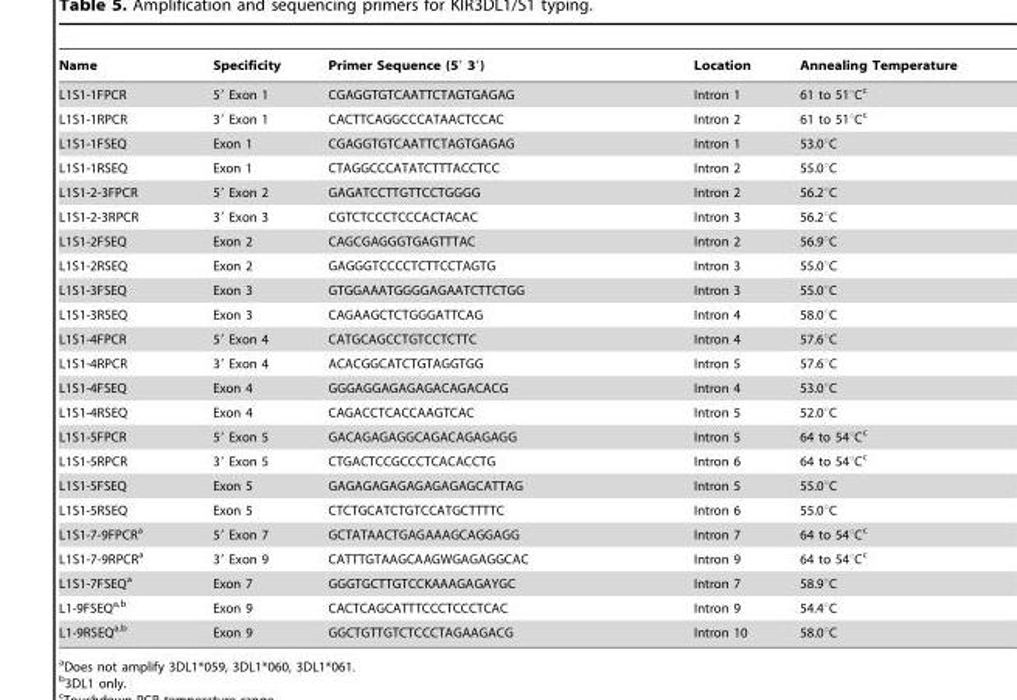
<table><thead><tr><td>Name</td><td>Specificity</td><td>Primer Sequence (5′ 3′)</td><td>Location</td><td>Annealing Temperature</td></tr></thead><tbody><tr><td>L1S1-1FPCR</td><td>5′ Exon 1</td><td>CGAGGTGTCAATTCTAGTGAGAG</td><td>Intron 1</td><td>61 to 51°C<sup>c</sup></td></tr><tr><td>L1S1-1RPCR</td><td>3′ Exon 1</td><td>CACTTCAGGCCCATAACTCCAC</td><td>Intron 2</td><td>61 to 51°C<sup>c</sup></td></tr><tr><td>L1S1-1FSEQ</td><td>Exon 1</td><td>CGAGGTGTCAATTCTAGTGAGAG</td><td>Intron 1</td><td>53.0°C</td></tr><tr><td>L1S1-1RSEQ</td><td>Exon 1</td><td>CTAGGCCCATATCTTTACCTCC</td><td>Intron 2</td><td>55.0°C</td></tr><tr><td>L1S1-2-3FPCR</td><td>5′ Exon 2</td><td>GAGATCCTTGTTCCTGGGG</td><td>Intron 2</td><td>56.2°C</td></tr><tr><td>L1S1-2-3RPCR</td><td>3′ Exon 3</td><td>CGTCTCCCTCCCACTACAC</td><td>Intron 3</td><td>56.2°C</td></tr><tr><td>L1S1-2FSEQ</td><td>Exon 2</td><td>CAGCGAGGGTGAGTTTAC</td><td>Intron 2</td><td>56.9°C</td></tr><tr><td>L1S1-2RSEQ</td><td>Exon 2</td><td>GAGGGTCCCCTCTTCCTAGTG</td><td>Intron 3</td><td>55.0°C</td></tr><tr><td>L1S1-3FSEQ</td><td>Exon 3</td><td>GTGGAAATGGGGAGAATCTTCTGG</td><td>Intron 3</td><td>55.0°C</td></tr><tr><td>L1S1-3RSEQ</td><td>Exon 3</td><td>CAGAAGCTCTGGGATTCAG</td><td>Intron 4</td><td>58.0°C</td></tr><tr><td>L1S1-4FPCR</td><td>5′ Exon 4</td><td>CATGCAGCCTGTCCTCTTC</td><td>Intron 4</td><td>57.6°C</td></tr><tr><td>L1S1-4RPCR</td><td>3′ Exon 4</td><td>ACACGGCATCTGTAGGTGG</td><td>Intron 5</td><td>57.6°C</td></tr><tr><td>L1S1-4FSEQ</td><td>Exon 4</td><td>GGGAGGAGAGAGACAGACACG</td><td>Intron 4</td><td>53.0°C</td></tr><tr><td>L1S1-4RSEQ</td><td>Exon 4</td><td>CAGACCTCACCAAGTCAC</td><td>Intron 5</td><td>52.0°C</td></tr><tr><td>L1S1-5FPCR</td><td>5′ Exon 5</td><td>GACAGAGAGGCAGACAGAGAGG</td><td>Intron 5</td><td>64 to 54°C<sup>c</sup></td></tr><tr><td>L1S1-5RPCR</td><td>3′ Exon 5</td><td>CTGACTCCGCCCTCACACCTG</td><td>Intron 6</td><td>64 to 54°C<sup>c</sup></td></tr><tr><td>L1S1-5FSEQ</td><td>Exon 5</td><td>GAGAGAGAGAGAGAGAGCATTAG</td><td>Intron 5</td><td>55.0°C</td></tr><tr><td>L1S1-5RSEQ</td><td>Exon 5</td><td>CTCTGCATCTGTCCATGCTTTTC</td><td>Intron 6</td><td>55.0°C</td></tr><tr><td>L1S1-7-9FPCR<sup>a</sup></td><td>5′ Exon 7</td><td>GCTATAACTGAGAAAGCAGGAGG</td><td>Intron 7</td><td>64 to 54°C<sup>c</sup></td></tr><tr><td>L1S1-7-9RPCR<sup>a</sup></td><td>3′ Exon 9</td><td>CATTTGTAAGCAAGWGAGAGGCAC</td><td>Intron 9</td><td>64 to 54°C<sup>c</sup></td></tr><tr><td>L1S1-7FSEQ<sup>a</sup></td><td>Exon 7</td><td>GGGTGCTTGTCCKAAAGAGAYGC</td><td>Intron 7</td><td>58.9°C</td></tr><tr><td>L1-9FSEQ<sup>a,</sup>b</td><td>Exon 9</td><td>CACTCAGCATTTCCCTCCCTCAC</td><td>Intron 9</td><td>54.4°C</td></tr><tr><td>L1-9RSEQ<sup>a,</sup>b</td><td>Exon 9</td><td>GGCTGTTGTCTCCCTAGAAGACG</td><td>Intron 10</td><td>58.0°C</td></tr></tbody></table>